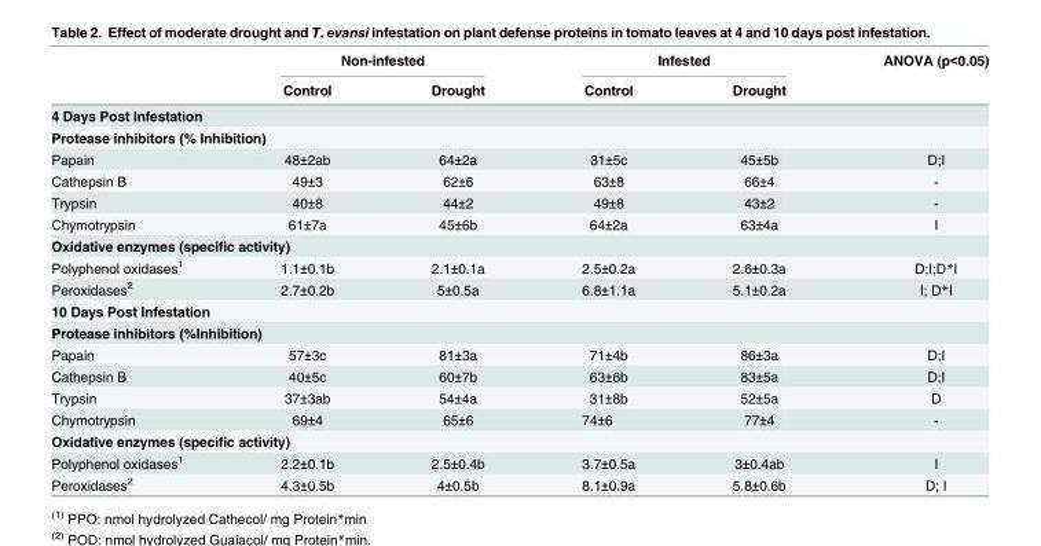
<table><thead><tr><td rowspan="2"></td><td colspan="2">Non-infested</td><td colspan="2">Infested</td><td rowspan="2">ANOVA (p&lt;0.05)</td></tr><tr><td>Control</td><td>Drought</td><td>Control</td><td>Drought</td></tr></thead><tbody><tr><td colspan="6">4 Days Post Infestation</td></tr><tr><td colspan="6">Protease inhibitors (% Inhibition)</td></tr><tr><td>Papain</td><td>48±2ab</td><td>64±2a</td><td>31±5c</td><td>45±5b</td><td>D;I</td></tr><tr><td>Cathepsin B</td><td>49±3</td><td>62±6</td><td>63±8</td><td>66±4</td><td>-</td></tr><tr><td>Trypsin</td><td>40±8</td><td>44±2</td><td>49±8</td><td>43±2</td><td>-</td></tr><tr><td>Chymotrypsin</td><td>61±7a</td><td>45±6b</td><td>64±2a</td><td>63±4a</td><td>I</td></tr><tr><td colspan="6">Oxidative enzymes (specific activity)</td></tr><tr><td>Polyphenol oxidases<sup>1</sup></td><td>1.1±0.1b</td><td>2.1±0.1a</td><td>2.5±0.2a</td><td>2.6±0.3a</td><td>D;I;D*I</td></tr><tr><td>Peroxidases<sup>2</sup></td><td>2.7±0.2b</td><td>5±0.5a</td><td>6.8±1.1a</td><td>5.1±0.2a</td><td>I; D*I</td></tr><tr><td colspan="6">10 Days Post Infestation</td></tr><tr><td colspan="6">Protease inhibitors (%Inhibition)</td></tr><tr><td>Papain</td><td>57±3c</td><td>81±3a</td><td>71±4b</td><td>86±3a</td><td>D;I</td></tr><tr><td>Cathepsin B</td><td>40±5c</td><td>60±7b</td><td>63±6b</td><td>83±5a</td><td>D;I</td></tr><tr><td>Trypsin</td><td>37±3ab</td><td>54±4a</td><td>31±8b</td><td>52±5a</td><td>D</td></tr><tr><td>Chymotrypsin</td><td>69±4</td><td>65±6</td><td>74±6</td><td>77±4</td><td>-</td></tr><tr><td colspan="6">Oxidative enzymes (specific activity)</td></tr><tr><td>Polyphenol oxidases<sup>1</sup></td><td>2.2±0.1b</td><td>2.5±0.4b</td><td>3.7±0.5a</td><td>3±0.4ab</td><td>I</td></tr><tr><td>Peroxidases<sup>2</sup></td><td>4.3±0.5b</td><td>4±0.5b</td><td>8.1±0.9a</td><td>5.8±0.6b</td><td>D; I</td></tr></tbody></table>